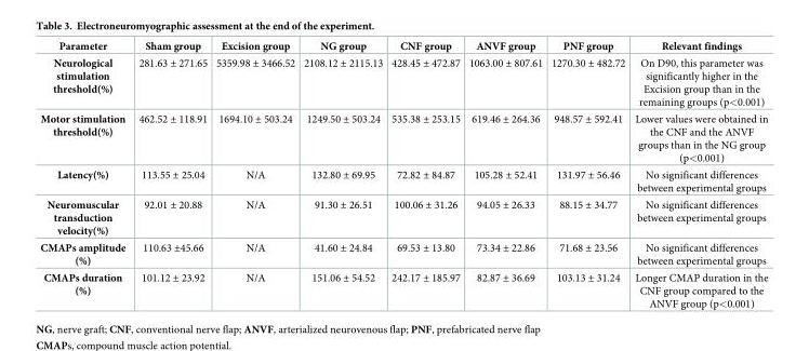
<table><thead><tr><td>Parameter</td><td>Sham group</td><td>Excision group</td><td>NG group</td><td>CNF group</td><td>ANVF group</td><td>PNF group</td><td>Relevant findings</td></tr></thead><tbody><tr><td>Neurological stimulation threshold(%)</td><td>281.63 ± 271.65</td><td>5359.98 ± 3466.52</td><td>2108.12 ± 2115.13</td><td>428.45 ± 472.87</td><td>1063.00 ± 807.61</td><td>1270.30 ± 482.72</td><td>On D90, this parameter was significantly higher in the Excision group than in the remaining groups (p&lt;0.001)</td></tr><tr><td>Motor stimulation threshold(%)</td><td>462.52 ± 118.91</td><td>1694.10 ± 503.24</td><td>1249.50 ± 503.24</td><td>535.38 ± 253.15</td><td>619.46 ± 264.36</td><td>948.57 ± 592.41</td><td>Lower values were obtained in the CNF and the ANVF groups than in the NG group (p&lt;0.001)</td></tr><tr><td>Latency(%)</td><td>113.55 ± 25.04</td><td>N/A</td><td>132.80 ± 69.95</td><td>72.82 ± 84.87</td><td>105.28 ± 52.41</td><td>131.97 ± 56.46</td><td>No significant differences between experimental groups</td></tr><tr><td>Neuromuscular transduction velocity(%)</td><td>92.01 ± 20.88</td><td>N/A</td><td>91.30 ± 26.51</td><td>100.06 ± 31.26</td><td>94.05 ± 26.33</td><td>88.15 ± 34.77</td><td>No significant differences between experimental groups</td></tr><tr><td>CMAPs amplitude (%)</td><td>110.63 ±45.66</td><td>N/A</td><td>41.60 ± 24.84</td><td>69.53 ± 13.80</td><td>73.34 ± 22.86</td><td>71.68 ± 23.56</td><td>No significant differences between experimental groups</td></tr><tr><td>CMAPs duration (%)</td><td>101.12 ± 23.92</td><td>N/A</td><td>151.06 ± 54.52</td><td>242.17 ± 185.97</td><td>82.87 ± 36.69</td><td>103.13 ± 31.24</td><td>Longer CMAP duration in the CNF group compared to the ANVF group (p&lt;0.001)</td></tr></tbody></table>